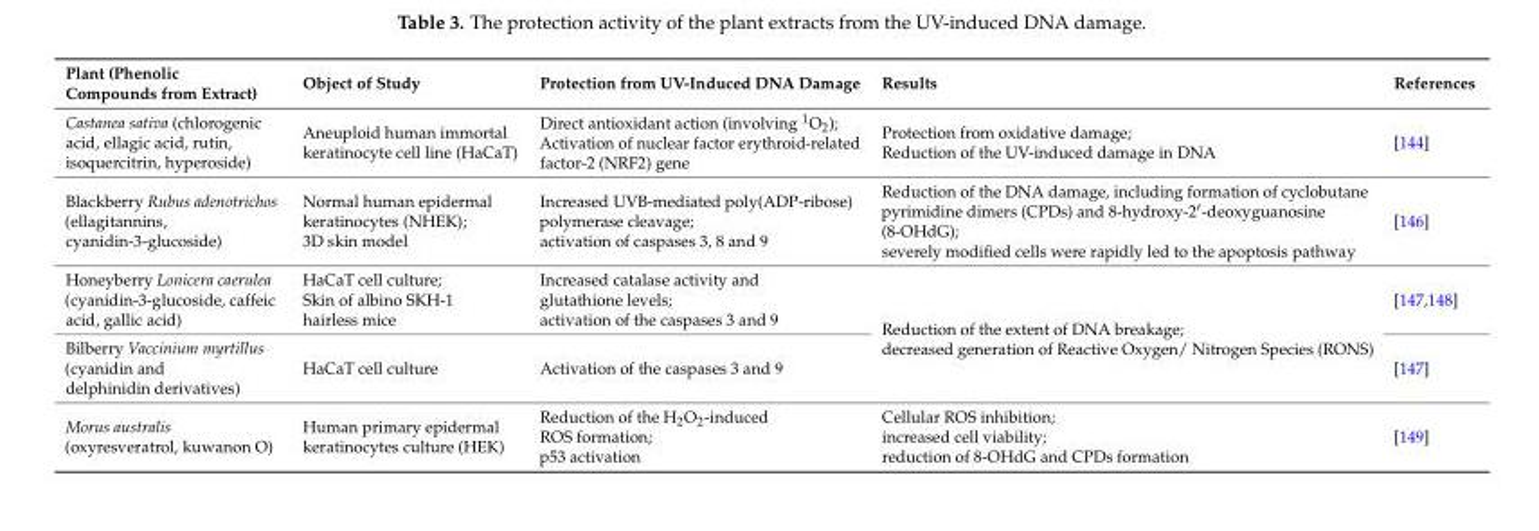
<table><thead><tr><td>Plant (Phenolic Compounds from Extract)</td><td>Object of Study</td><td>Protection from UV-Induced DNA Damage</td><td>Results</td><td>References</td></tr></thead><tbody><tr><td>Castanea sativa (chlorogenic acid, ellagic acid, rutin, isoquercitrin, hyperoside)</td><td>Aneuploid human immortal keratinocyte cell line (HaCaT)</td><td>Direct antioxidant action (involving <sup>1</sup>O<sub>2</sub>); Activation of nuclear factor erythroid-related factor-2 (NRF2) gene</td><td>Protection from oxidative damage; Reduction of the UV-induced damage in DNA</td><td>[144]</td></tr><tr><td>Blackberry Rubus adenotrichos (ellagitannins, cyanidin-3-glucoside)</td><td>Normal human epidermal keratinocytes (NHEK); 3D skin model</td><td>Increased UVB-mediated poly(ADP-ribose) polymerase cleavage; activation of caspases 3, 8 and 9</td><td>Reduction of the DNA damage, including formation of cyclobutane pyrimidine dimers (CPDs) and 8-hydroxy-2′-deoxyguanosine (8-OHdG); severely modified cells were rapidly led to the apoptosis pathway</td><td>[146]</td></tr><tr><td>Honeyberry Lonicera caerulea (cyanidin-3-glucoside, caffeic acid, gallic acid)</td><td>HaCaT cell culture; Skin of albino SKH-1 hairless mice</td><td>Increased catalase activity and glutathione levels; activation of the caspases 3 and 9</td><td rowspan="2">Reduction of the extent of DNA breakage; decreased generation of Reactive Oxygen/ Nitrogen Species (RONS)</td><td>[147,148]</td></tr><tr><td>Bilberry Vaccinium myrtillus (cyanidin and delphinidin derivatives)</td><td>HaCaT cell culture</td><td>Activation of the caspases 3 and 9</td><td>[147]</td></tr><tr><td>Morus australis (oxyresveratrol, kuwanon O)</td><td>Human primary epidermal keratinocytes culture (HEK)</td><td>Reduction of the H<sub>2</sub>O<sub>2</sub>-induced ROS formation; p53 activation</td><td>Cellular ROS inhibition; increased cell viability; reduction of 8-OHdG and CPDs formation</td><td>[149]</td></tr></tbody></table>